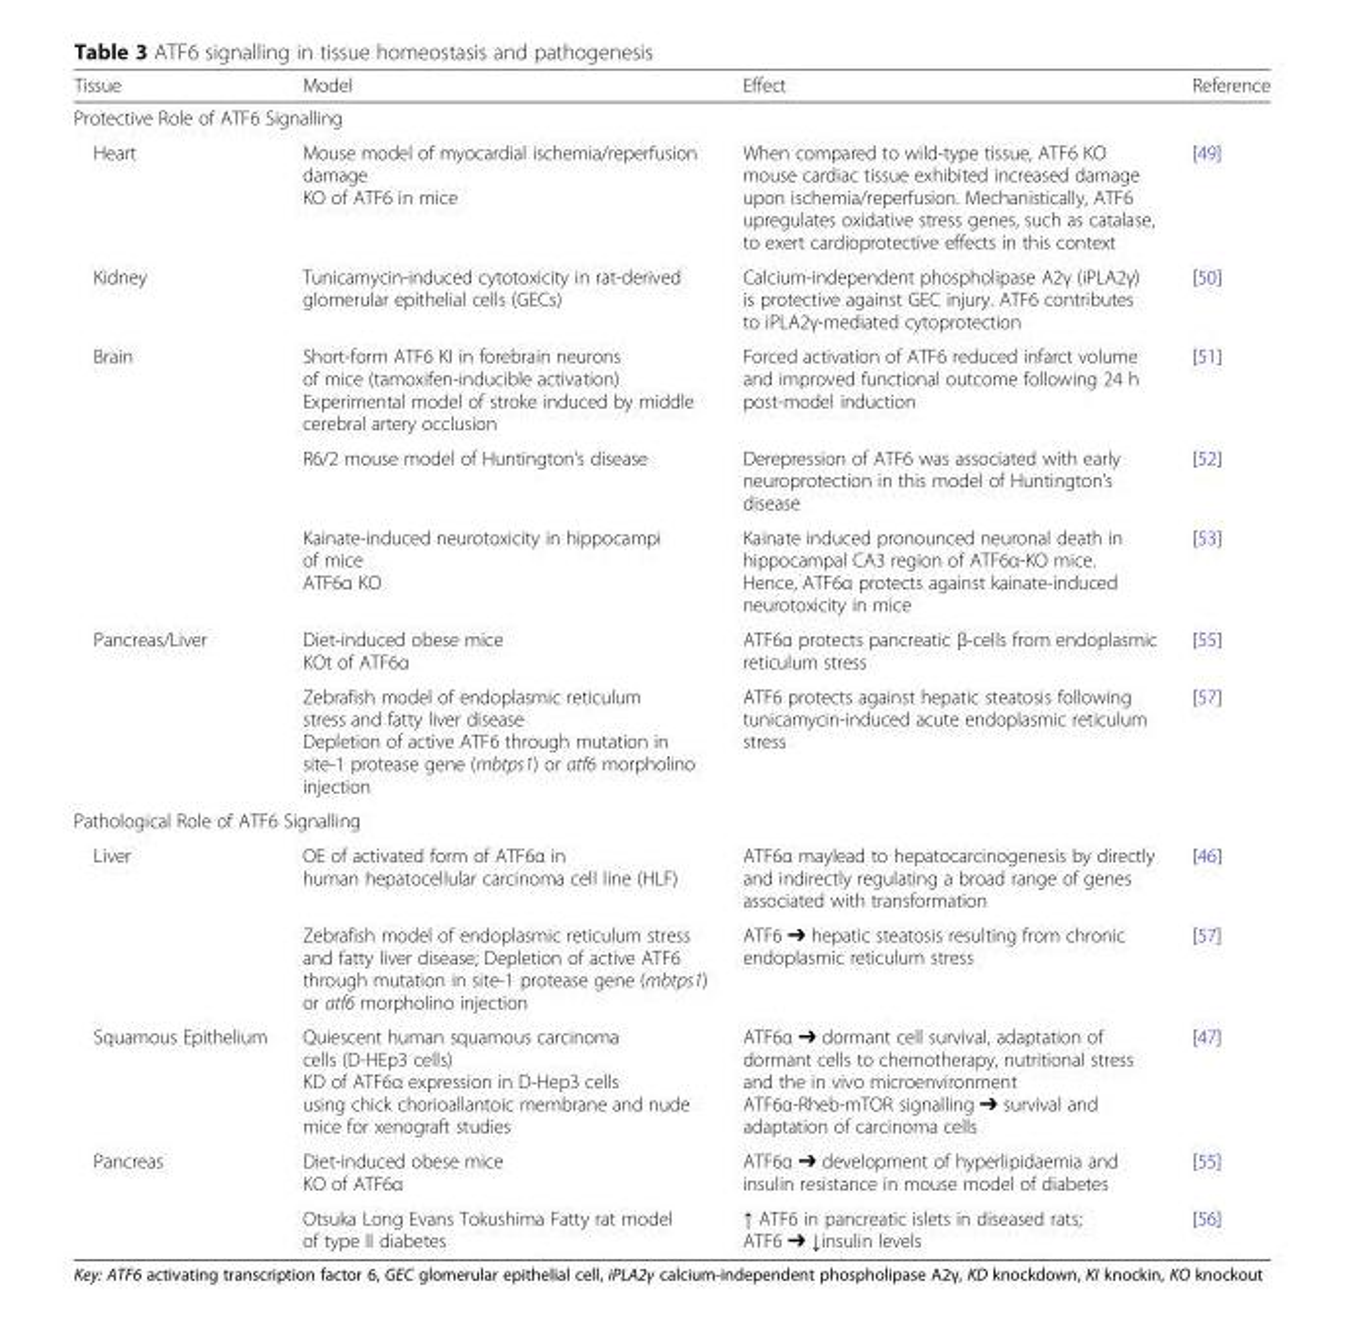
<table><thead><tr><td>Tissue</td><td>Model</td><td>Effect</td><td>Reference</td></tr></thead><tbody><tr><td colspan="4">Protective Role of ATF6 Signalling</td></tr><tr><td>Heart</td><td>Mouse model of myocardial ischemia/reperfusion damage KO of ATF6 in mice</td><td>When compared to wild-type tissue, ATF6 KO mouse cardiac tissue exhibited increased damage upon ischemia/reperfusion. Mechanistically, ATF6 upregulates oxidative stress genes, such as catalase, to exert cardioprotective effects in this context</td><td>[49]</td></tr><tr><td>Kidney</td><td>Tunicamycin-induced cytotoxicity in rat-derived glomerular epithelial cells (GECs)</td><td>Calcium-independent phospholipase A2γ (iPLA2γ) is protective against GEC injury. ATF6 contributes to iPLA2γ-mediated cytoprotection</td><td>[50]</td></tr><tr><td rowspan="3">Brain</td><td>Short-form ATF6 KI in forebrain neurons of mice (tamoxifen-inducible activation) Experimental model of stroke induced by middle cerebral artery occlusion</td><td>Forced activation of ATF6 reduced infarct volume and improved functional outcome following 24 h post-model induction</td><td>[51]</td></tr><tr><td>R6/2 mouse model of Huntington’s disease</td><td>Derepression of ATF6 was associated with early neuroprotection in this model of Huntington’s disease</td><td>[52]</td></tr><tr><td>Kainate-induced neurotoxicity in hippocampi of mice ATF6α KO</td><td>Kainate induced pronounced neuronal death in hippocampal CA3 region of ATF6α-KO mice. Hence, ATF6α protects against kainate-induced neurotoxicity in mice</td><td>[53]</td></tr><tr><td rowspan="2">Pancreas/Liver</td><td>Diet-induced obese mice KOt of ATF6α</td><td>ATF6α protects pancreatic β-cells from endoplasmic reticulum stress</td><td>[55]</td></tr><tr><td>Zebrafish model of endoplasmic reticulum stress and fatty liver disease Depletion of active ATF6 through mutation in site-1 protease gene (mbtps1) or atf6 morpholino injection</td><td>ATF6 protects against hepatic steatosis following tunicamycin-induced acute endoplasmic reticulum stress</td><td>[57]</td></tr><tr><td colspan="4">Pathological Role of ATF6 Signalling</td></tr><tr><td rowspan="2">Liver</td><td>OE of activated form of ATF6α in human hepatocellular carcinoma cell line (HLF)</td><td>ATF6α maylead to hepatocarcinogenesis by directly and indirectly regulating a broad range of genes associated with transformation</td><td>[46]</td></tr><tr><td>Zebrafish model of endoplasmic reticulum stress and fatty liver disease; Depletion of active ATF6 through mutation in site-1 protease gene (mbtps1) or atf6 morpholino injection</td><td>ATF6 ➔ hepatic steatosis resulting from chronic endoplasmic reticulum stress</td><td>[57]</td></tr><tr><td>Squamous Epithelium</td><td>Quiescent human squamous carcinoma cells (D-HEp3 cells) KD of ATF6α expression in D-Hep3 cells using chick chorioallantoic membrane and nude mice for xenograft studies</td><td>ATF6α ➔ dormant cell survival, adaptation of dormant cells to chemotherapy, nutritional stress and the in vivo microenvironment ATF6α-Rheb-mTOR signalling ➔ survival and adaptation of carcinoma cells</td><td>[47]</td></tr><tr><td rowspan="2">Pancreas</td><td>Diet-induced obese mice KO of ATF6α</td><td>ATF6α ➔ development of hyperlipidaemia and insulin resistance in mouse model of diabetes</td><td>[55]</td></tr><tr><td>Otsuka Long Evans Tokushima Fatty rat model of type II diabetes</td><td>↑ ATF6 in pancreatic islets in diseased rats; ATF6 ➔ ↓insulin levels</td><td>[56]</td></tr></tbody></table>